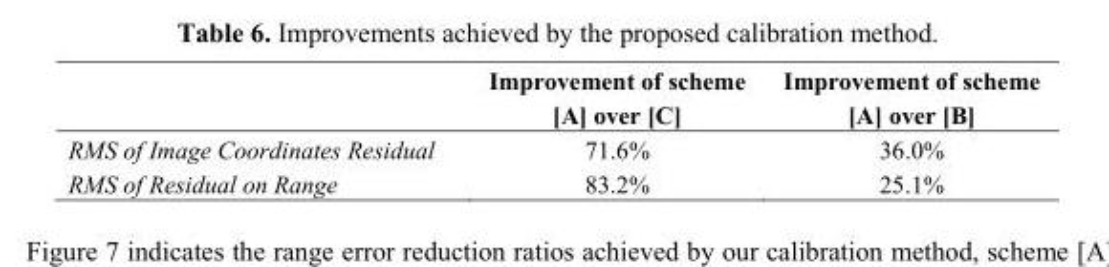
<table><thead><tr><td></td><td>Improvement of scheme [A] over [C]</td><td>Improvement of scheme [A] over [B]</td></tr></thead><tbody><tr><td>RMS of Image Coordinates Residual</td><td>71.6%</td><td>36.0%</td></tr><tr><td>RMS of Residual on Range</td><td>83.2%</td><td>25.1%</td></tr></tbody></table>